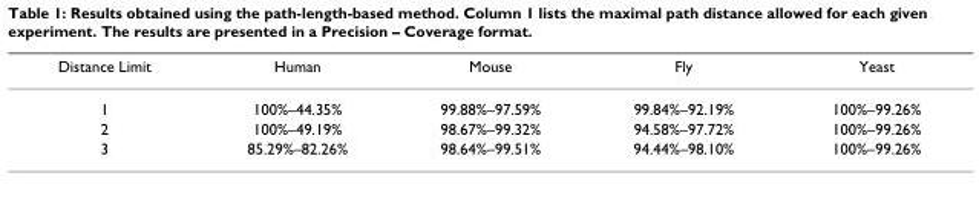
<table><thead><tr><td>Distance Limit</td><td>Human</td><td>Mouse</td><td>Fly</td><td>Yeast</td></tr></thead><tbody><tr><td>1</td><td>100%–44.35%</td><td>99.88%–97.59%</td><td>99.84%–92.19%</td><td>100%–99.26%</td></tr><tr><td>2</td><td>100%–49.19%</td><td>98.67%–99.32%</td><td>94.58%–97.72%</td><td>100%–99.26%</td></tr><tr><td>3</td><td>85.29%–82.26%</td><td>98.64%–99.51%</td><td>94.44%–98.10%</td><td>100%–99.26%</td></tr></tbody></table>